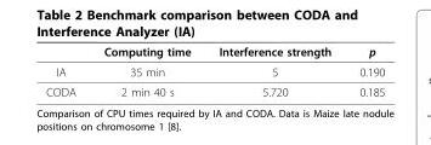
<table><thead><tr><td></td><td>Computing time</td><td>Interference strength</td><td>p</td></tr></thead><tbody><tr><td>IA</td><td>35 min</td><td>5</td><td>0.190</td></tr><tr><td>CODA</td><td>2 min 40 s</td><td>5.720</td><td>0.185</td></tr></tbody></table>